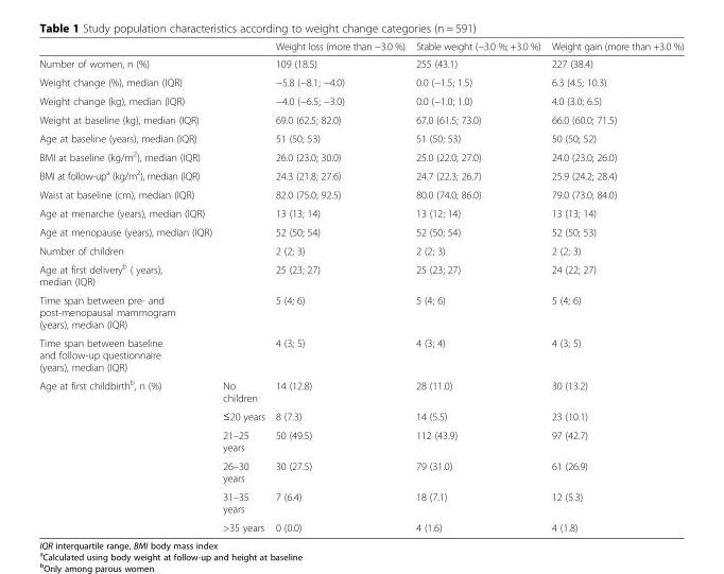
<table><thead><tr><td></td><td></td><td>Weight loss (more than −3.0 %)</td><td>Stable weight (−3.0 %; +3.0 %)</td><td>Weight gain (more than +3.0 %)</td></tr></thead><tbody><tr><td>Number of women, n (%)</td><td></td><td>109 (18.5)</td><td>255 (43.1)</td><td>227 (38.4)</td></tr><tr><td>Weight change (%), median (IQR)</td><td></td><td>−5.8 (−8.1; −4.0)</td><td>0.0 (−1.5; 1.5)</td><td>6.3 (4.5; 10.3)</td></tr><tr><td>Weight change (kg), median (IQR)</td><td></td><td>−4.0 (−6.5; −3.0)</td><td>0.0 (−1.0; 1.0)</td><td>4.0 (3.0; 6.5)</td></tr><tr><td>Weight at baseline (kg), median (IQR)</td><td></td><td>69.0 (62.5; 82.0)</td><td>67.0 (61.5; 73.0)</td><td>66.0 (60.0; 71.5)</td></tr><tr><td>Age at baseline (years), median (IQR)</td><td></td><td>51 (50; 53)</td><td>51 (50; 53)</td><td>50 (50; 52)</td></tr><tr><td>BMI at baseline (kg/m<sup>2</sup>), median (IQR)</td><td></td><td>26.0 (23.0; 30.0)</td><td>25.0 (22.0; 27.0)</td><td>24.0 (23.0; 26.0)</td></tr><tr><td>BMI at follow-up<sup>a</sup> (kg/m<sup>2</sup>), median (IQR)</td><td></td><td>24.3 (21.8; 27.6)</td><td>24.7 (22.3; 26.7)</td><td>25.9 (24.2; 28.4)</td></tr><tr><td>Waist at baseline (cm), median (IQR)</td><td></td><td>82.0 (75.0; 92.5)</td><td>80.0 (74.0; 86.0)</td><td>79.0 (73.0; 84.0)</td></tr><tr><td>Age at menarche (years), median (IQR)</td><td></td><td>13 (13; 14)</td><td>13 (12; 14)</td><td>13 (13; 14)</td></tr><tr><td>Age at menopause (years), median (IQR)</td><td></td><td>52 (50; 54)</td><td>52 (50; 54)</td><td>52 (50; 53)</td></tr><tr><td>Number of children</td><td></td><td>2 (2; 3)</td><td>2 (2; 3)</td><td>2 (2; 3)</td></tr><tr><td>Age at first delivery<sup>b</sup> ( years), median (IQR)</td><td></td><td>25 (23; 27)</td><td>25 (23; 27)</td><td>24 (22; 27)</td></tr><tr><td>Time span between pre- and post-menopausal mammogram (years), median (IQR)</td><td></td><td>5 (4; 6)</td><td>5 (4; 6)</td><td>5 (4; 6)</td></tr><tr><td>Time span between baseline and follow-up questionnaire (years), median (IQR)</td><td></td><td>4 (3; 5)</td><td>4 (3; 4)</td><td>4 (3; 5)</td></tr><tr><td rowspan="6">Age at first childbirth<sup>b</sup>, n (%)</td><td>No children</td><td>14 (12.8)</td><td>28 (11.0)</td><td>30 (13.2)</td></tr><tr><td>≤20 years</td><td>8 (7.3)</td><td>14 (5.5)</td><td>23 (10.1)</td></tr><tr><td>21–25 years</td><td>50 (49.5)</td><td>112 (43.9)</td><td>97 (42.7)</td></tr><tr><td>26–30 years</td><td>30 (27.5)</td><td>79 (31.0)</td><td>61 (26.9)</td></tr><tr><td>31–35 years</td><td>7 (6.4)</td><td>18 (7.1)</td><td>12 (5.3)</td></tr><tr><td>&gt;35 years</td><td>0 (0.0)</td><td>4 (1.6)</td><td>4 (1.8)</td></tr></tbody></table>